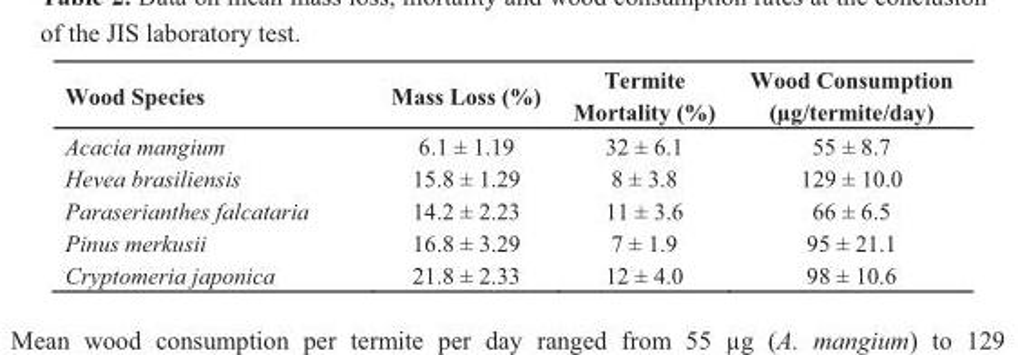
<table><thead><tr><td>Wood Species</td><td>Mass Loss (%)</td><td>Termite Mortality (%)</td><td>Wood Consumption (µg/termite/day)</td></tr></thead><tbody><tr><td>Acacia mangium</td><td>6.1 ± 1.19</td><td>32 ± 6.1</td><td>55 ± 8.7</td></tr><tr><td>Hevea brasiliensis</td><td>15.8 ± 1.29</td><td>8 ± 3.8</td><td>129 ± 10.0</td></tr><tr><td>Paraserianthes falcataria</td><td>14.2 ± 2.23</td><td>11 ± 3.6</td><td>66 ± 6.5</td></tr><tr><td>Pinus merkusii</td><td>16.8 ± 3.29</td><td>7 ± 1.9</td><td>95 ± 21.1</td></tr><tr><td>Cryptomeria japonica</td><td>21.8 ± 2.33</td><td>12 ± 4.0</td><td>98 ± 10.6</td></tr></tbody></table>